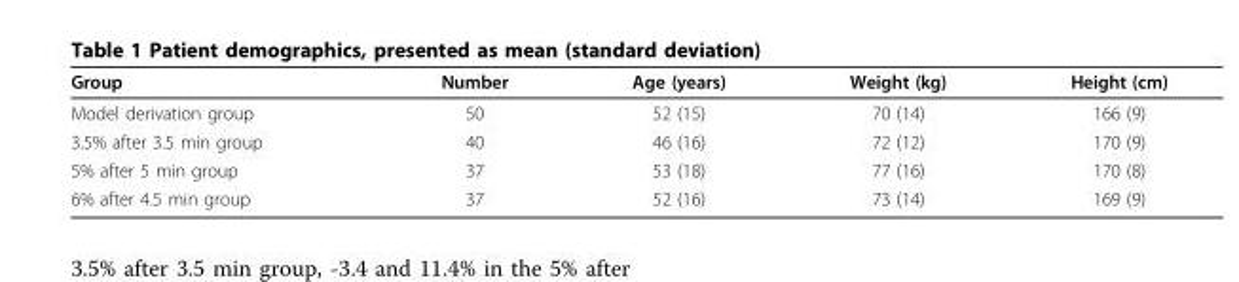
<table><thead><tr><td>Group</td><td>Number</td><td>Age (years)</td><td>Weight (kg)</td><td>Height (cm)</td></tr></thead><tbody><tr><td>Model derivation group</td><td>50</td><td>52 (15)</td><td>70 (14)</td><td>166 (9)</td></tr><tr><td>3.5% after 3.5 min group</td><td>40</td><td>46 (16)</td><td>72 (12)</td><td>170 (9)</td></tr><tr><td>5% after 5 min group</td><td>37</td><td>53 (18)</td><td>77 (16)</td><td>170 (8)</td></tr><tr><td>6% after 4.5 min group</td><td>37</td><td>52 (16)</td><td>73 (14)</td><td>169 (9)</td></tr></tbody></table>